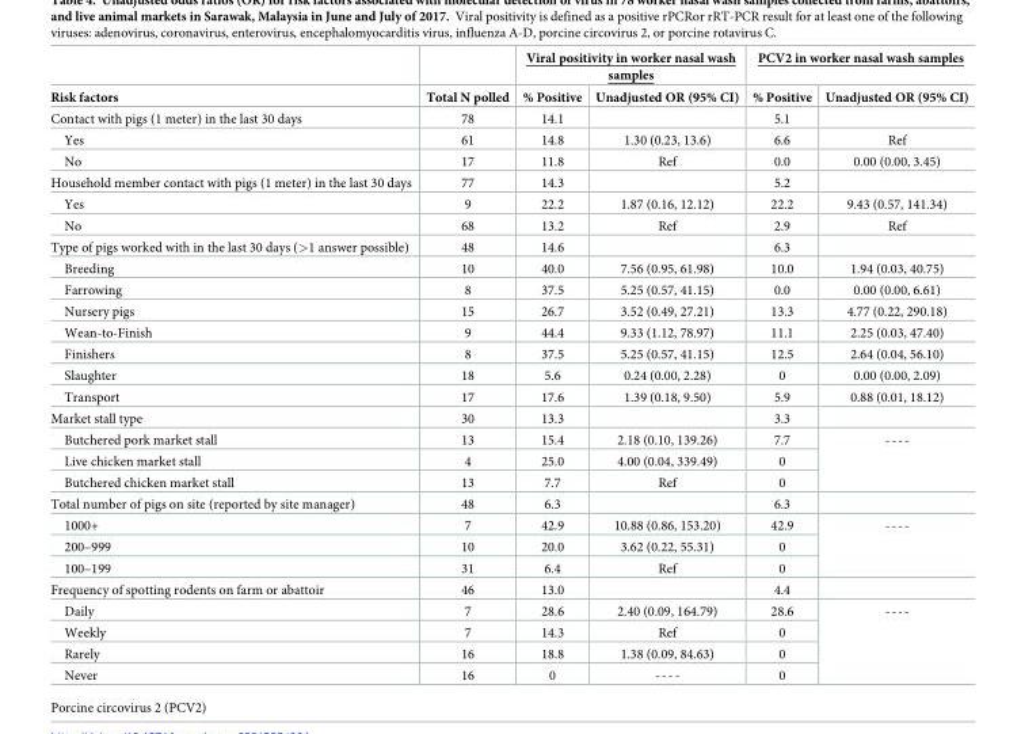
<table><thead><tr><td rowspan="2">Risk factors</td><td rowspan="2">Total N polled</td><td colspan="2">Viral positivity in worker nasal wash samples</td><td colspan="2">PCV2 in worker nasal wash samples</td></tr><tr><td>% Positive</td><td>Unadjusted OR (95% CI)</td><td>% Positive</td><td>Unadjusted OR (95% CI)</td></tr></thead><tbody><tr><td>Contact with pigs (1 meter) in the last 30 days</td><td>78</td><td>14.1</td><td></td><td>5.1</td><td></td></tr><tr><td>Yes</td><td>61</td><td>14.8</td><td>1.30 (0.23, 13.6)</td><td>6.6</td><td>Ref</td></tr><tr><td>No</td><td>17</td><td>11.8</td><td>Ref</td><td>0.0</td><td>0.00 (0.00, 3.45)</td></tr><tr><td>Household member contact with pigs (1 meter) in the last 30 days</td><td>77</td><td>14.3</td><td></td><td>5.2</td><td></td></tr><tr><td>Yes</td><td>9</td><td>22.2</td><td>1.87 (0.16, 12.12)</td><td>22.2</td><td>9.43 (0.57, 141.34)</td></tr><tr><td>No</td><td>68</td><td>13.2</td><td>Ref</td><td>2.9</td><td>Ref</td></tr><tr><td>Type of pigs worked with in the last 30 days (&gt;1 answer possible)</td><td>48</td><td>14.6</td><td></td><td>6.3</td><td></td></tr><tr><td>Breeding</td><td>10</td><td>40.0</td><td>7.56 (0.95, 61.98)</td><td>10.0</td><td>1.94 (0.03, 40.75)</td></tr><tr><td>Farrowing</td><td>8</td><td>37.5</td><td>5.25 (0.57, 41.15)</td><td>0.0</td><td>0.00 (0.00, 6.61)</td></tr><tr><td>Nursery pigs</td><td>15</td><td>26.7</td><td>3.52 (0.49, 27.21)</td><td>13.3</td><td>4.77 (0.22, 290.18)</td></tr><tr><td>Wean-to-Finish</td><td>9</td><td>44.4</td><td>9.33 (1.12, 78.97)</td><td>11.1</td><td>2.25 (0.03, 47.40)</td></tr><tr><td>Finishers</td><td>8</td><td>37.5</td><td>5.25 (0.57, 41.15)</td><td>12.5</td><td>2.64 (0.04, 56.10)</td></tr><tr><td>Slaughter</td><td>18</td><td>5.6</td><td>0.24 (0.00, 2.28)</td><td>0</td><td>0.00 (0.00, 2.09)</td></tr><tr><td>Transport</td><td>17</td><td>17.6</td><td>1.39 (0.18, 9.50)</td><td>5.9</td><td>0.88 (0.01, 18.12)</td></tr><tr><td>Market stall type</td><td>30</td><td>13.3</td><td></td><td>3.3</td><td></td></tr><tr><td>Butchered pork market stall</td><td>13</td><td>15.4</td><td>2.18 (0.10, 139.26)</td><td>7.7</td><td rowspan="3">----</td></tr><tr><td>Live chicken market stall</td><td>4</td><td>25.0</td><td>4.00 (0.04, 339.49)</td><td>0</td></tr><tr><td>Butchered chicken market stall</td><td>13</td><td>7.7</td><td>Ref</td><td>0</td></tr><tr><td>Total number of pigs on site (reported by site manager)</td><td>48</td><td>6.3</td><td></td><td>6.3</td><td></td></tr><tr><td>1000+</td><td>7</td><td>42.9</td><td>10.88 (0.86, 153.20)</td><td>42.9</td><td rowspan="3">----</td></tr><tr><td>200–999</td><td>10</td><td>20.0</td><td>3.62 (0.22, 55.31)</td><td>0</td></tr><tr><td>100–199</td><td>31</td><td>6.4</td><td>Ref</td><td>0</td></tr><tr><td>Frequency of spotting rodents on farm or abattoir</td><td>46</td><td>13.0</td><td></td><td>4.4</td><td></td></tr><tr><td>Daily</td><td>7</td><td>28.6</td><td>2.40 (0.09, 164.79)</td><td>28.6</td><td rowspan="4">----</td></tr><tr><td>Weekly</td><td>7</td><td>14.3</td><td>Ref</td><td>0</td></tr><tr><td>Rarely</td><td>16</td><td>18.8</td><td>1.38 (0.09, 84.63)</td><td>0</td></tr><tr><td>Never</td><td>16</td><td>0</td><td>----</td><td>0</td></tr></tbody></table>